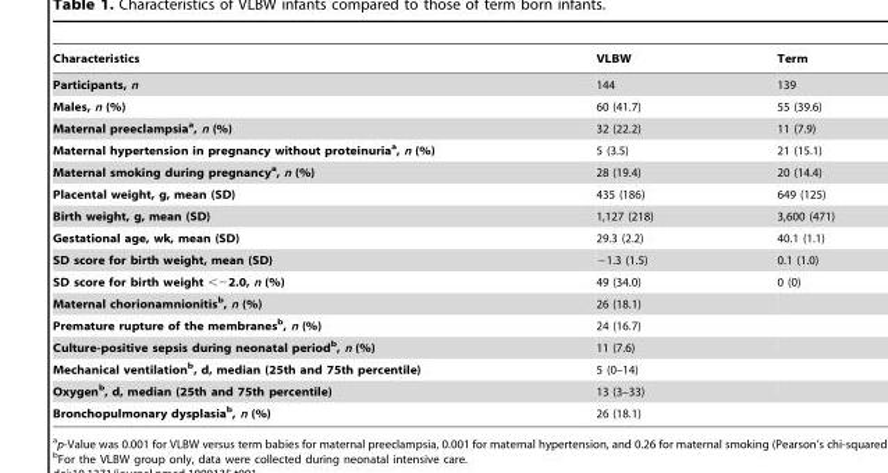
<table><thead><tr><td>Characteristics</td><td>VLBW</td><td>Term</td></tr></thead><tbody><tr><td>Participants, n</td><td>144</td><td>139</td></tr><tr><td>Males, n (%)</td><td>60 (41.7)</td><td>55 (39.6)</td></tr><tr><td>Maternal preeclampsiaa, n (%)</td><td>32 (22.2)</td><td>11 (7.9)</td></tr><tr><td>Maternal hypertension in pregnancy without proteinuriaa, n (%)</td><td>5 (3.5)</td><td>21 (15.1)</td></tr><tr><td>Maternal smoking during pregnancya, n (%)</td><td>28 (19.4)</td><td>20 (14.4)</td></tr><tr><td>Placental weight, g, mean (SD)</td><td>435 (186)</td><td>649 (125)</td></tr><tr><td>Birth weight, g, mean (SD)</td><td>1,127 (218)</td><td>3,600 (471)</td></tr><tr><td>Gestational age, wk, mean (SD)</td><td>29.3 (2.2)</td><td>40.1 (1.1)</td></tr><tr><td>SD score for birth weight, mean (SD)</td><td>−1.3 (1.5)</td><td>0.1 (1.0)</td></tr><tr><td>SD score for birth weight &lt;−2.0, n (%)</td><td>49 (34.0)</td><td>0 (0)</td></tr><tr><td>Maternal chorionamnionitisb, n (%)</td><td>26 (18.1)</td><td></td></tr><tr><td>Premature rupture of the membranesb, n (%)</td><td>24 (16.7)</td><td></td></tr><tr><td>Culture-positive sepsis during neonatal periodb, n (%)</td><td>11 (7.6)</td><td></td></tr><tr><td>Mechanical ventilationb, d, median (25th and 75th percentile)</td><td>5 (0–14)</td><td></td></tr><tr><td>Oxygenb, d, median (25th and 75th percentile)</td><td>13 (3–33)</td><td></td></tr><tr><td>Bronchopulmonary dysplasiab, n (%)</td><td>26 (18.1)</td><td></td></tr></tbody></table>